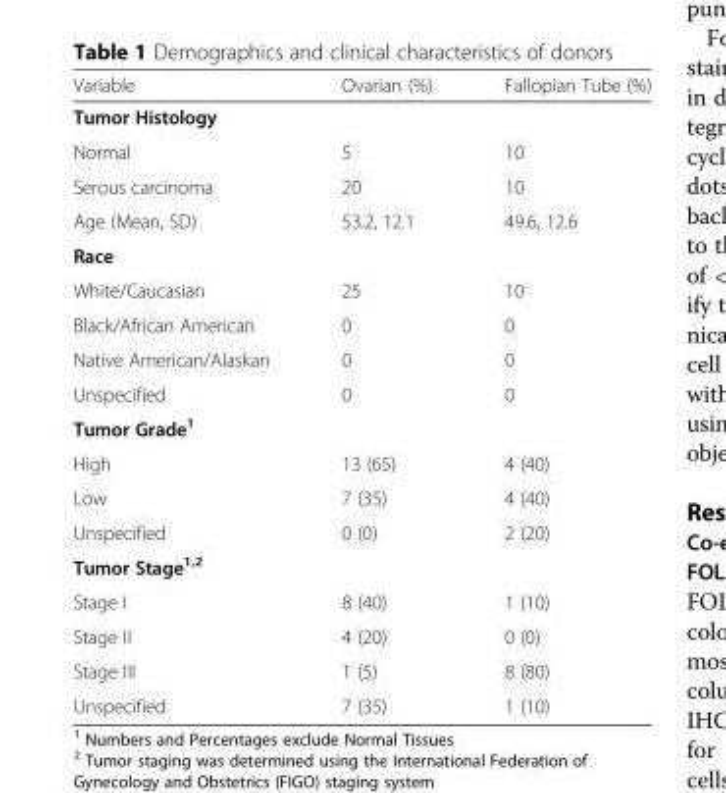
<table><thead><tr><td>Variable</td><td>Ovarian (%)</td><td>Fallopian Tube (%)</td></tr></thead><tbody><tr><td colspan="3">Tumor Histology</td></tr><tr><td>Normal</td><td>5</td><td>10</td></tr><tr><td>Serous carcinoma</td><td>20</td><td>10</td></tr><tr><td>Age (Mean, SD)</td><td>53.2, 12.1</td><td>49.6, 12.6</td></tr><tr><td colspan="3">Race</td></tr><tr><td>White/Caucasian</td><td>25</td><td>10</td></tr><tr><td>Black/African American</td><td>0</td><td>0</td></tr><tr><td>Native American/Alaskan</td><td>0</td><td>0</td></tr><tr><td>Unspecified</td><td>0</td><td>0</td></tr><tr><td colspan="3">Tumor Grade<sup>1</sup></td></tr><tr><td>High</td><td>13 (65)</td><td>4 (40)</td></tr><tr><td>Low</td><td>7 (35)</td><td>4 (40)</td></tr><tr><td>Unspecified</td><td>0 (0)</td><td>2 (20)</td></tr><tr><td colspan="3">Tumor Stage<sup>1,2</sup></td></tr><tr><td>Stage I</td><td>8 (40)</td><td>1 (10)</td></tr><tr><td>Stage II</td><td>4 (20)</td><td>0 (0)</td></tr><tr><td>Stage III</td><td>1 (5)</td><td>8 (80)</td></tr><tr><td>Unspecified</td><td>7 (35)</td><td>1 (10)</td></tr></tbody></table>